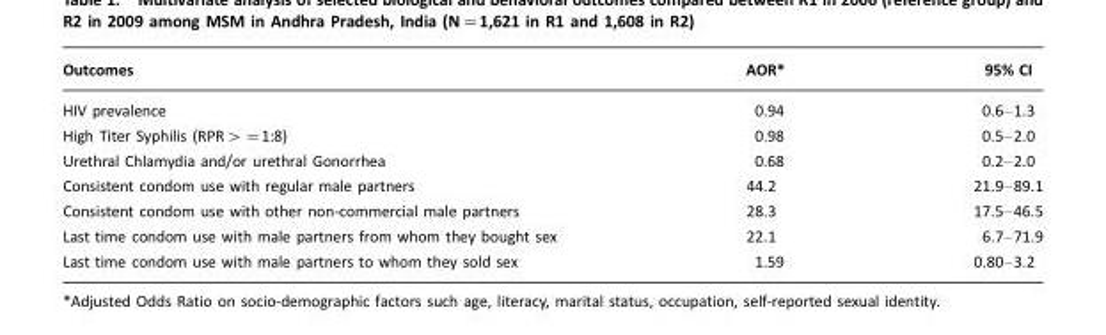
<table><thead><tr><td>Outcomes</td><td>AOR*</td><td>95% CI</td></tr></thead><tbody><tr><td>HIV prevalence</td><td>0.94</td><td>0.6–1.3</td></tr><tr><td>High Titer Syphilis (RPR&gt;=1:8)</td><td>0.98</td><td>0.5–2.0</td></tr><tr><td>Urethral Chlamydia and/or urethral Gonorrhea</td><td>0.68</td><td>0.2–2.0</td></tr><tr><td>Consistent condom use with regular male partners</td><td>44.2</td><td>21.9–89.1</td></tr><tr><td>Consistent condom use with other non-commercial male partners</td><td>28.3</td><td>17.5–46.5</td></tr><tr><td>Last time condom use with male partners from whom they bought sex</td><td>22.1</td><td>6.7–71.9</td></tr><tr><td>Last time condom use with male partners to whom they sold sex</td><td>1.59</td><td>0.80–3.2</td></tr></tbody></table>